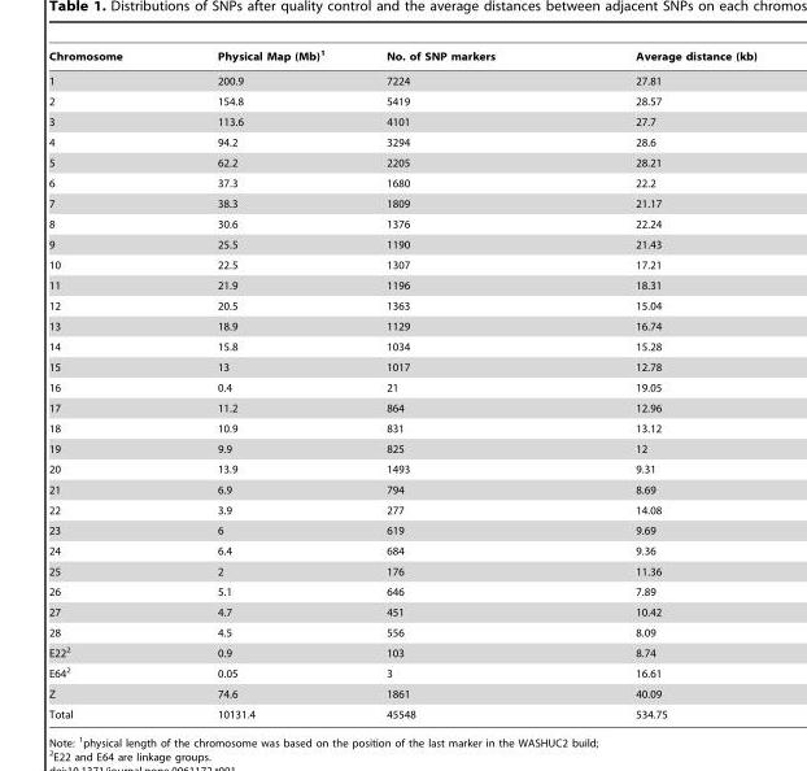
<table><thead><tr><td>Chromosome</td><td>Physical Map (Mb)<sup>1</sup></td><td>No. of SNP markers</td><td>Average distance (kb)</td></tr></thead><tbody><tr><td>1</td><td>200.9</td><td>7224</td><td>27.81</td></tr><tr><td>2</td><td>154.8</td><td>5419</td><td>28.57</td></tr><tr><td>3</td><td>113.6</td><td>4101</td><td>27.7</td></tr><tr><td>4</td><td>94.2</td><td>3294</td><td>28.6</td></tr><tr><td>5</td><td>62.2</td><td>2205</td><td>28.21</td></tr><tr><td>6</td><td>37.3</td><td>1680</td><td>22.2</td></tr><tr><td>7</td><td>38.3</td><td>1809</td><td>21.17</td></tr><tr><td>8</td><td>30.6</td><td>1376</td><td>22.24</td></tr><tr><td>9</td><td>25.5</td><td>1190</td><td>21.43</td></tr><tr><td>10</td><td>22.5</td><td>1307</td><td>17.21</td></tr><tr><td>11</td><td>21.9</td><td>1196</td><td>18.31</td></tr><tr><td>12</td><td>20.5</td><td>1363</td><td>15.04</td></tr><tr><td>13</td><td>18.9</td><td>1129</td><td>16.74</td></tr><tr><td>14</td><td>15.8</td><td>1034</td><td>15.28</td></tr><tr><td>15</td><td>13</td><td>1017</td><td>12.78</td></tr><tr><td>16</td><td>0.4</td><td>21</td><td>19.05</td></tr><tr><td>17</td><td>11.2</td><td>864</td><td>12.96</td></tr><tr><td>18</td><td>10.9</td><td>831</td><td>13.12</td></tr><tr><td>19</td><td>9.9</td><td>825</td><td>12</td></tr><tr><td>20</td><td>13.9</td><td>1493</td><td>9.31</td></tr><tr><td>21</td><td>6.9</td><td>794</td><td>8.69</td></tr><tr><td>22</td><td>3.9</td><td>277</td><td>14.08</td></tr><tr><td>23</td><td>6</td><td>619</td><td>9.69</td></tr><tr><td>24</td><td>6.4</td><td>684</td><td>9.36</td></tr><tr><td>25</td><td>2</td><td>176</td><td>11.36</td></tr><tr><td>26</td><td>5.1</td><td>646</td><td>7.89</td></tr><tr><td>27</td><td>4.7</td><td>451</td><td>10.42</td></tr><tr><td>28</td><td>4.5</td><td>556</td><td>8.09</td></tr><tr><td>E22<sup>2</sup></td><td>0.9</td><td>103</td><td>8.74</td></tr><tr><td>E64<sup>2</sup></td><td>0.05</td><td>3</td><td>16.61</td></tr><tr><td>Z</td><td>74.6</td><td>1861</td><td>40.09</td></tr><tr><td>Total</td><td>10131.4</td><td>45548</td><td>534.75</td></tr></tbody></table>